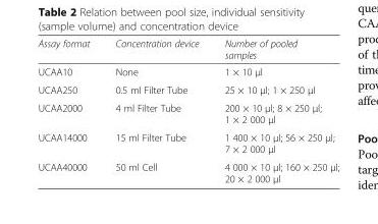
<table><thead><tr><td>Assay format</td><td>Concentration device</td><td>Number of pooled samples</td></tr></thead><tbody><tr><td>UCAA10</td><td>None</td><td>1 × 10 μl</td></tr><tr><td>UCAA250</td><td>0.5 ml Filter Tube</td><td>25 × 10 μl; 1 × 250 μl</td></tr><tr><td>UCAA2000</td><td>4 ml Filter Tube</td><td>200 × 10 μl; 8 × 250 μl; 1 × 2 000 μl</td></tr><tr><td>UCAA14000</td><td>15 ml Filter Tube</td><td>1 400 × 10 μl; 56 × 250 μl; 7 × 2 000 μl</td></tr><tr><td>UCAA40000</td><td>50 ml Cell</td><td>4 000 × 10 μl; 160 × 250 μl; 20 × 2 000 μl</td></tr></tbody></table>